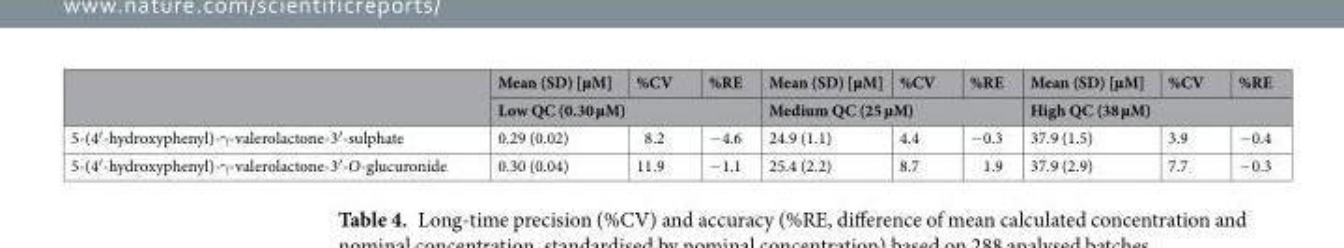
<table><thead><tr><td rowspan="2"></td><td>Mean (SD) [µM]</td><td>%CV</td><td>%RE</td><td>Mean (SD) [µM]</td><td>%CV</td><td>%RE</td><td>Mean (SD) [µM]</td><td>%CV</td><td>%RE</td></tr><tr><td colspan="3">Low QC (0.30 µM)</td><td colspan="3">Medium QC (25 µM)</td><td colspan="3">High QC (38 µM)</td></tr></thead><tbody><tr><td>5-(4′-hydroxyphenyl)-γ-valerolactone-3′-sulphate</td><td>0.29 (0.02)</td><td>8.2</td><td>−4.6</td><td>24.9 (1.1)</td><td>4.4</td><td>−0.3</td><td>37.9 (1.5)</td><td>3.9</td><td>−0.4</td></tr><tr><td>5-(4′-hydroxyphenyl)-γ-valerolactone-3′-O-glucuronide</td><td>0.30 (0.04)</td><td>11.9</td><td>−1.1</td><td>25.4 (2.2)</td><td>8.7</td><td>1.9</td><td>37.9 (2.9)</td><td>7.7</td><td>−0.3</td></tr></tbody></table>